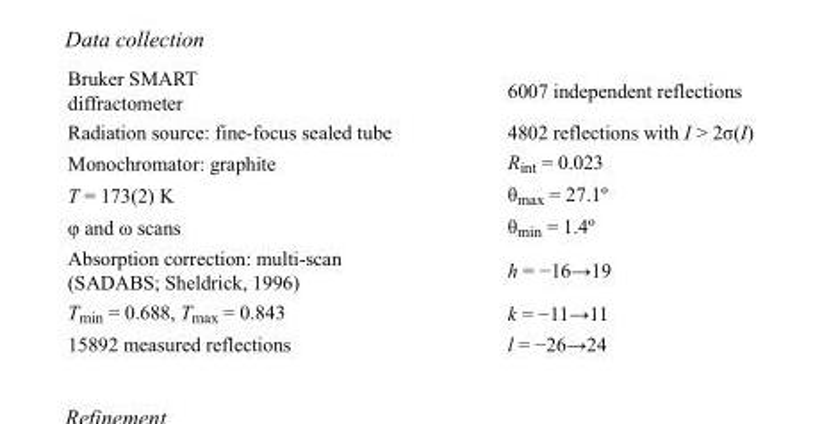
<table><tbody><tr><td>Bruker SMART diffractometer</td><td>6007 independent reflections</td></tr><tr><td>Radiation source: fine-focus sealed tube</td><td>4802 reflections with I &gt; 2σ(I)</td></tr><tr><td>Monochromator: graphite</td><td>R<sub>int</sub> = 0.023</td></tr><tr><td>T = 173(2) K</td><td>θ<sub>max</sub> = 27.1º</td></tr><tr><td>φ and ω scans</td><td>θ<sub>min</sub> = 1.4º</td></tr><tr><td>Absorption correction: multi-scan (SADABS; Sheldrick, 1996)</td><td>h = −16→19</td></tr><tr><td>T<sub>min</sub> = 0.688, T<sub>max</sub> = 0.843</td><td>k = −11→11</td></tr><tr><td>15892 measured reflections</td><td>l = −26→24</td></tr></tbody></table>